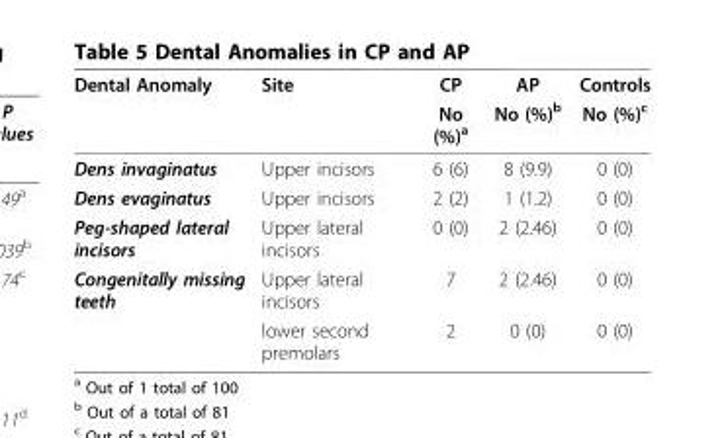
<table><thead><tr><td rowspan="2">Dental Anomaly</td><td rowspan="2">Site</td><td rowspan="2">CP No (%)<sup>a</sup></td><td rowspan="2">AP No (%)<sup>b</sup></td><td rowspan="2">Controls No (%)<sup>c</sup></td></tr><tr></tr></thead><tbody><tr><td>Dens invaginatus</td><td>Upper incisors</td><td>6 (6)</td><td>8 (9.9)</td><td>0 (0)</td></tr><tr><td>Dens evaginatus</td><td>Upper incisors</td><td>2 (2)</td><td>1 (1.2)</td><td>0 (0)</td></tr><tr><td>Peg-shaped lateral incisors</td><td>Upper lateral incisors</td><td>0 (0)</td><td>2 (2.46)</td><td>0 (0)</td></tr><tr><td rowspan="2">Congenitally missing teeth</td><td>Upper lateral incisors</td><td>7</td><td>2 (2.46)</td><td>0 (0)</td></tr><tr><td>lower second premolars</td><td>2</td><td>0 (0)</td><td>0 (0)</td></tr></tbody></table>